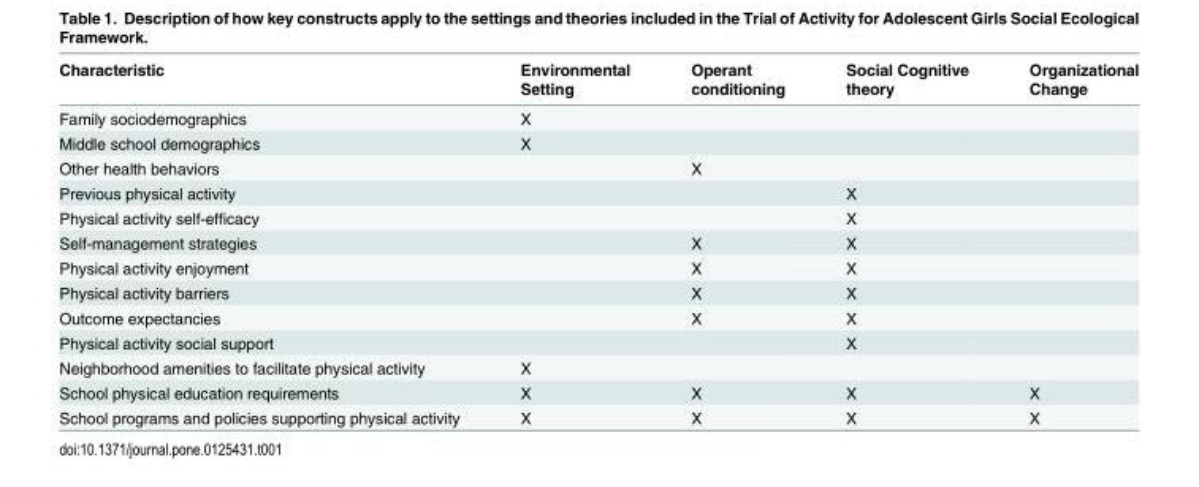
<table><thead><tr><td>Characteristic</td><td>Environmental Setting</td><td>Operant conditioning</td><td>Social Cognitive theory</td><td>Organizational Change</td></tr></thead><tbody><tr><td>Family sociodemographics</td><td>X</td><td></td><td></td><td></td></tr><tr><td>Middle school demographics</td><td>X</td><td></td><td></td><td></td></tr><tr><td>Other health behaviors</td><td></td><td>X</td><td></td><td></td></tr><tr><td>Previous physical activity</td><td></td><td></td><td>X</td><td></td></tr><tr><td>Physical activity self-efficacy</td><td></td><td></td><td>X</td><td></td></tr><tr><td>Self-management strategies</td><td></td><td>X</td><td>X</td><td></td></tr><tr><td>Physical activity enjoyment</td><td></td><td>X</td><td>X</td><td></td></tr><tr><td>Physical activity barriers</td><td></td><td>X</td><td>X</td><td></td></tr><tr><td>Outcome expectancies</td><td></td><td>X</td><td>X</td><td></td></tr><tr><td>Physical activity social support</td><td></td><td></td><td>X</td><td></td></tr><tr><td>Neighborhood amenities to facilitate physical activity</td><td>X</td><td></td><td></td><td></td></tr><tr><td>School physical education requirements</td><td>X</td><td>X</td><td>X</td><td>X</td></tr><tr><td>School programs and policies supporting physical activity</td><td>X</td><td>X</td><td>X</td><td>X</td></tr></tbody></table>